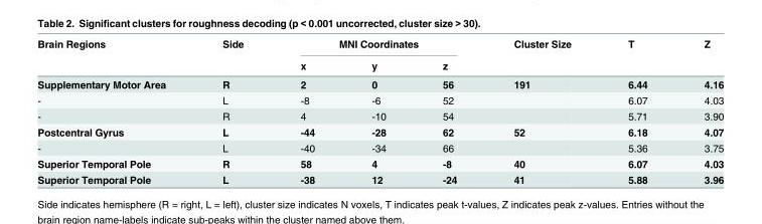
<table><thead><tr><td rowspan="2">Brain Regions</td><td rowspan="2">Side</td><td colspan="3">MNI Coordinates</td><td rowspan="2">Cluster Size</td><td rowspan="2">T</td><td rowspan="2">Z</td></tr><tr><td>x</td><td>y</td><td>z</td></tr></thead><tbody><tr><td>Supplementary Motor Area</td><td>R</td><td>2</td><td>0</td><td>56</td><td>191</td><td>6.44</td><td>4.16</td></tr><tr><td>-</td><td>L</td><td>-8</td><td>-6</td><td>52</td><td></td><td>6.07</td><td>4.03</td></tr><tr><td>-</td><td>R</td><td>4</td><td>-10</td><td>54</td><td></td><td>5.71</td><td>3.90</td></tr><tr><td>Postcentral Gyrus</td><td>L</td><td>-44</td><td>-28</td><td>62</td><td>52</td><td>6.18</td><td>4.07</td></tr><tr><td>-</td><td>L</td><td>-40</td><td>-34</td><td>66</td><td></td><td>5.36</td><td>3.75</td></tr><tr><td>Superior Temporal Pole</td><td>R</td><td>58</td><td>4</td><td>-8</td><td>40</td><td>6.07</td><td>4.03</td></tr><tr><td>Superior Temporal Pole</td><td>L</td><td>-38</td><td>12</td><td>-24</td><td>41</td><td>5.88</td><td>3.96</td></tr></tbody></table>